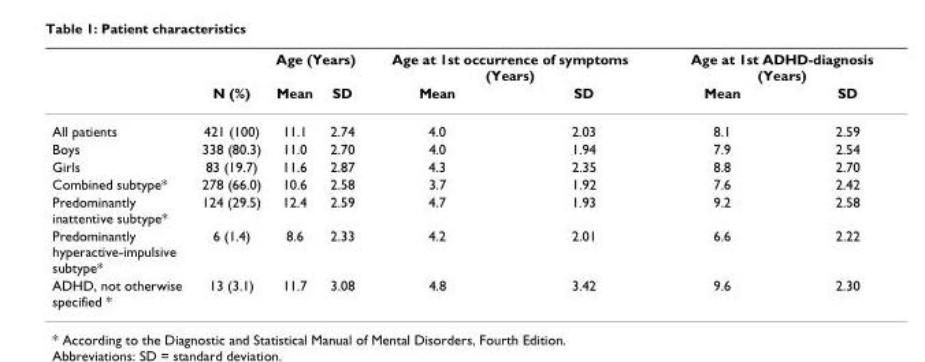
<table><thead><tr><td rowspan="2"></td><td rowspan="2">N (%)</td><td colspan="2">Age (Years)</td><td colspan="2">Age at 1st occurrence of symptoms (Years)</td><td colspan="2">Age at 1st ADHD-diagnosis (Years)</td></tr><tr><td>Mean</td><td>SD</td><td>Mean</td><td>SD</td><td>Mean</td><td>SD</td></tr></thead><tbody><tr><td>All patients</td><td>421 (100)</td><td>11.1</td><td>2.74</td><td>4.0</td><td>2.03</td><td>8.1</td><td>2.59</td></tr><tr><td>Boys</td><td>338 (80.3)</td><td>11.0</td><td>2.70</td><td>4.0</td><td>1.94</td><td>7.9</td><td>2.54</td></tr><tr><td>Girls</td><td>83 (19.7)</td><td>11.6</td><td>2.87</td><td>4.3</td><td>2.35</td><td>8.8</td><td>2.70</td></tr><tr><td>Combined subtype*</td><td>278 (66.0)</td><td>10.6</td><td>2.58</td><td>3.7</td><td>1.92</td><td>7.6</td><td>2.42</td></tr><tr><td>Predominantly inattentive subtype*</td><td>124 (29.5)</td><td>12.4</td><td>2.59</td><td>4.7</td><td>1.93</td><td>9.2</td><td>2.58</td></tr><tr><td>Predominantly hyperactive-impulsive subtype*</td><td>6 (1.4)</td><td>8.6</td><td>2.33</td><td>4.2</td><td>2.01</td><td>6.6</td><td>2.22</td></tr><tr><td>ADHD, not otherwise specified *</td><td>13 (3.1)</td><td>11.7</td><td>3.08</td><td>4.8</td><td>3.42</td><td>9.6</td><td>2.30</td></tr></tbody></table>